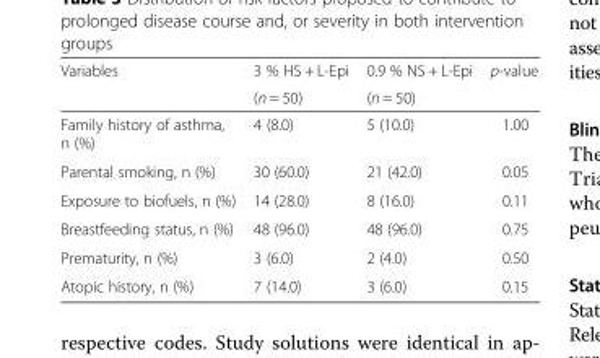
<table><thead><tr><td rowspan="2">Variables</td><td rowspan="2">3 % HS + L-Epi (n = 50)</td><td rowspan="2">0.9 % NS + L-Epi (n = 50)</td><td rowspan="2">p-value</td></tr><tr></tr></thead><tbody><tr><td>Family history of asthma, n (%)</td><td>4 (8.0)</td><td>5 (10.0)</td><td>1.00</td></tr><tr><td>Parental smoking, n (%)</td><td>30 (60.0)</td><td>21 (42.0)</td><td>0.05</td></tr><tr><td>Exposure to biofuels, n (%)</td><td>14 (28.0)</td><td>8 (16.0)</td><td>0.11</td></tr><tr><td>Breastfeeding status, n (%)</td><td>48 (96.0)</td><td>48 (96.0)</td><td>0.75</td></tr><tr><td>Prematurity, n (%)</td><td>3 (6.0)</td><td>2 (4.0)</td><td>0.50</td></tr><tr><td>Atopic history, n (%)</td><td>7 (14.0)</td><td>3 (6.0)</td><td>0.15</td></tr></tbody></table>